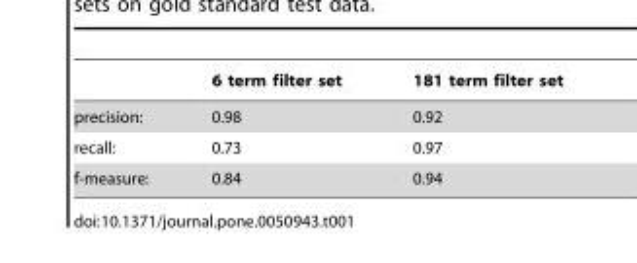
<table><thead><tr><td></td><td>6 term filter set</td><td>181 term filter set</td></tr></thead><tbody><tr><td>precision:</td><td>0.98</td><td>0.92</td></tr><tr><td>recall:</td><td>0.73</td><td>0.97</td></tr><tr><td>f-measure:</td><td>0.84</td><td>0.94</td></tr></tbody></table>